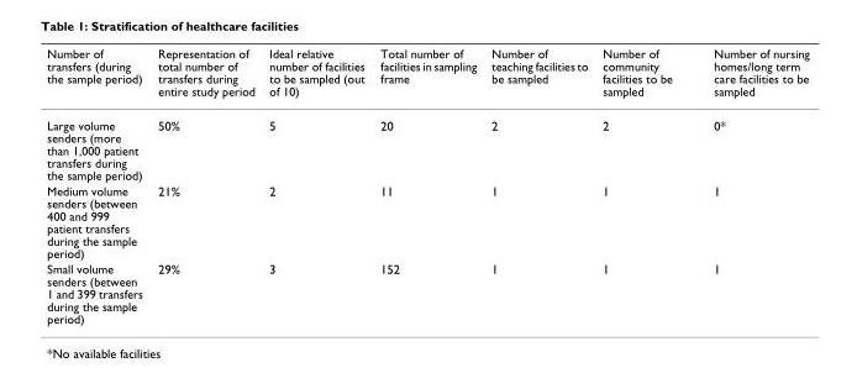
<table><thead><tr><td>Number of transfers (during the sample period)</td><td>Representation of total number of transfers during entire study period</td><td>Ideal relative number of facilities to be sampled (out of 10)</td><td>Total number of facilities in sampling frame</td><td>Number of teaching facilities to be sampled</td><td>Number of community facilities to be sampled</td><td>Number of nursing homes/long term care facilities to be sampled</td></tr></thead><tbody><tr><td>Large volume senders (more than 1,000 patient transfers during the sample period)</td><td>50%</td><td>5</td><td>20</td><td>2</td><td>2</td><td>0*</td></tr><tr><td>Medium volume senders (between 400 and 999 patient transfers during the sample period)</td><td>21%</td><td>2</td><td>11</td><td>1</td><td>1</td><td>1</td></tr><tr><td>Small volume senders (between 1 and 399 transfers during the sample period)</td><td>29%</td><td>3</td><td>152</td><td>1</td><td>1</td><td>1</td></tr></tbody></table>